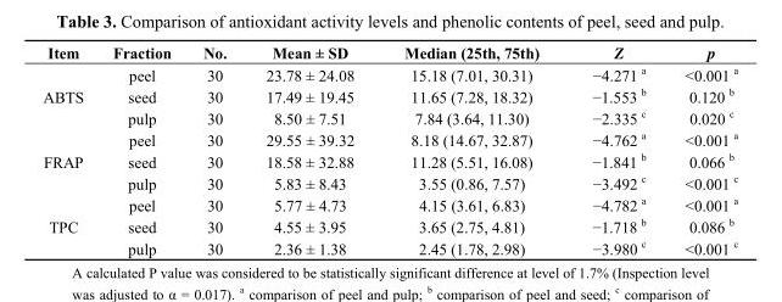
<table><thead><tr><td>Item</td><td>Fraction</td><td>No.</td><td>Mean ± SD</td><td>Median (25th, 75th)</td><td>Z</td><td>p</td></tr></thead><tbody><tr><td rowspan="3">ABTS</td><td>peel</td><td>30</td><td>23.78 ± 24.08</td><td>15.18 (7.01, 30.31)</td><td>−4.271 a</td><td>&lt;0.001 a</td></tr><tr><td>seed</td><td>30</td><td>17.49 ± 19.45</td><td>11.65 (7.28, 18.32)</td><td>−1.553 b</td><td>0.120 b</td></tr><tr><td>pulp</td><td>30</td><td>8.50 ± 7.51</td><td>7.84 (3.64, 11.30)</td><td>−2.335 c</td><td>0.020 c</td></tr><tr><td rowspan="3">FRAP</td><td>peel</td><td>30</td><td>29.55 ± 39.32</td><td>8.18 (14.67, 32.87)</td><td>−4.762 a</td><td>&lt;0.001 a</td></tr><tr><td>seed</td><td>30</td><td>18.58 ± 32.88</td><td>11.28 (5.51, 16.08)</td><td>−1.841 b</td><td>0.066 b</td></tr><tr><td>pulp</td><td>30</td><td>5.83 ± 8.43</td><td>3.55 (0.86, 7.57)</td><td>−3.492 c</td><td>&lt;0.001 c</td></tr><tr><td rowspan="3">TPC</td><td>peel</td><td>30</td><td>5.77 ± 4.73</td><td>4.15 (3.61, 6.83)</td><td>−4.782 a</td><td>&lt;0.001 a</td></tr><tr><td>seed</td><td>30</td><td>4.55 ± 3.95</td><td>3.65 (2.75, 4.81)</td><td>−1.718 b</td><td>0.086 b</td></tr><tr><td>pulp</td><td>30</td><td>2.36 ± 1.38</td><td>2.45 (1.78, 2.98)</td><td>−3.980 c</td><td>&lt;0.001 c</td></tr></tbody></table>